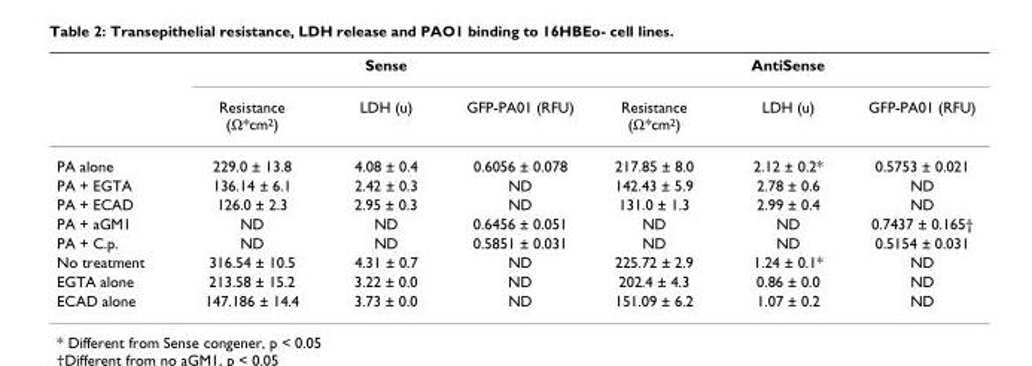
<table><thead><tr><td rowspan="2"></td><td colspan="3">Sense</td><td colspan="3">AntiSense</td></tr><tr><td>Resistance (Ω*cm<sup>2</sup>)</td><td>LDH (u)</td><td>GFP-PA01 (RFU)</td><td>Resistance (Ω*cm<sup>2</sup>)</td><td>LDH (u)</td><td>GFP-PA01 (RFU)</td></tr></thead><tbody><tr><td>PA alone</td><td>229.0 ± 13.8</td><td>4.08 ± 0.4</td><td>0.6056 ± 0.078</td><td>217.85 ± 8.0</td><td>2.12 ± 0.2*</td><td>0.5753 ± 0.021</td></tr><tr><td>PA + EGTA</td><td>136.14 ± 6.1</td><td>2.42 ± 0.3</td><td>ND</td><td>142.43 ± 5.9</td><td>2.78 ± 0.6</td><td>ND</td></tr><tr><td>PA + ECAD</td><td>126.0 ± 2.3</td><td>2.95 ± 0.3</td><td>ND</td><td>131.0 ± 1.3</td><td>2.99 ± 0.4</td><td>ND</td></tr><tr><td>PA + aGM1</td><td>ND</td><td>ND</td><td>0.6456 ± 0.051</td><td>ND</td><td>ND</td><td>0.7437 ± 0.165†</td></tr><tr><td>PA + C.p.</td><td>ND</td><td>ND</td><td>0.5851 ± 0.031</td><td>ND</td><td>ND</td><td>0.5154 ± 0.031</td></tr><tr><td>No treatment</td><td>316.54 ± 10.5</td><td>4.31 ± 0.7</td><td>ND</td><td>225.72 ± 2.9</td><td>1.24 ± 0.1*</td><td>ND</td></tr><tr><td>EGTA alone</td><td>213.58 ± 15.2</td><td>3.22 ± 0.0</td><td>ND</td><td>202.4 ± 4.3</td><td>0.86 ± 0.0</td><td>ND</td></tr><tr><td>ECAD alone</td><td>147.186 ± 14.4</td><td>3.73 ± 0.0</td><td>ND</td><td>151.09 ± 6.2</td><td>1.07 ± 0.2</td><td>ND</td></tr></tbody></table>